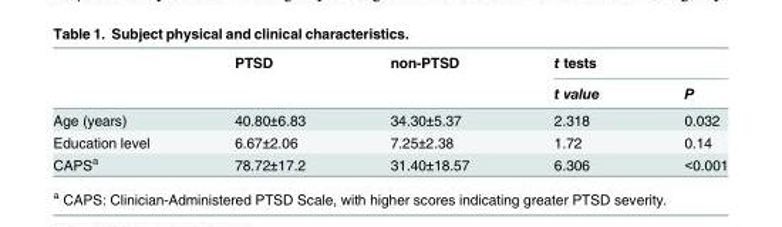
<table><thead><tr><td rowspan="2"></td><td rowspan="2">PTSD</td><td rowspan="2">non-PTSD</td><td colspan="2">t tests</td></tr><tr><td>t value</td><td>P</td></tr></thead><tbody><tr><td>Age (years)</td><td>40.80±6.83</td><td>34.30±5.37</td><td>2.318</td><td>0.032</td></tr><tr><td>Education level</td><td>6.67±2.06</td><td>7.25±2.38</td><td>1.72</td><td>0.14</td></tr><tr><td>CAPS<sup>a</sup></td><td>78.72±17.2</td><td>31.40±18.57</td><td>6.306</td><td>&lt;0.001</td></tr></tbody></table>